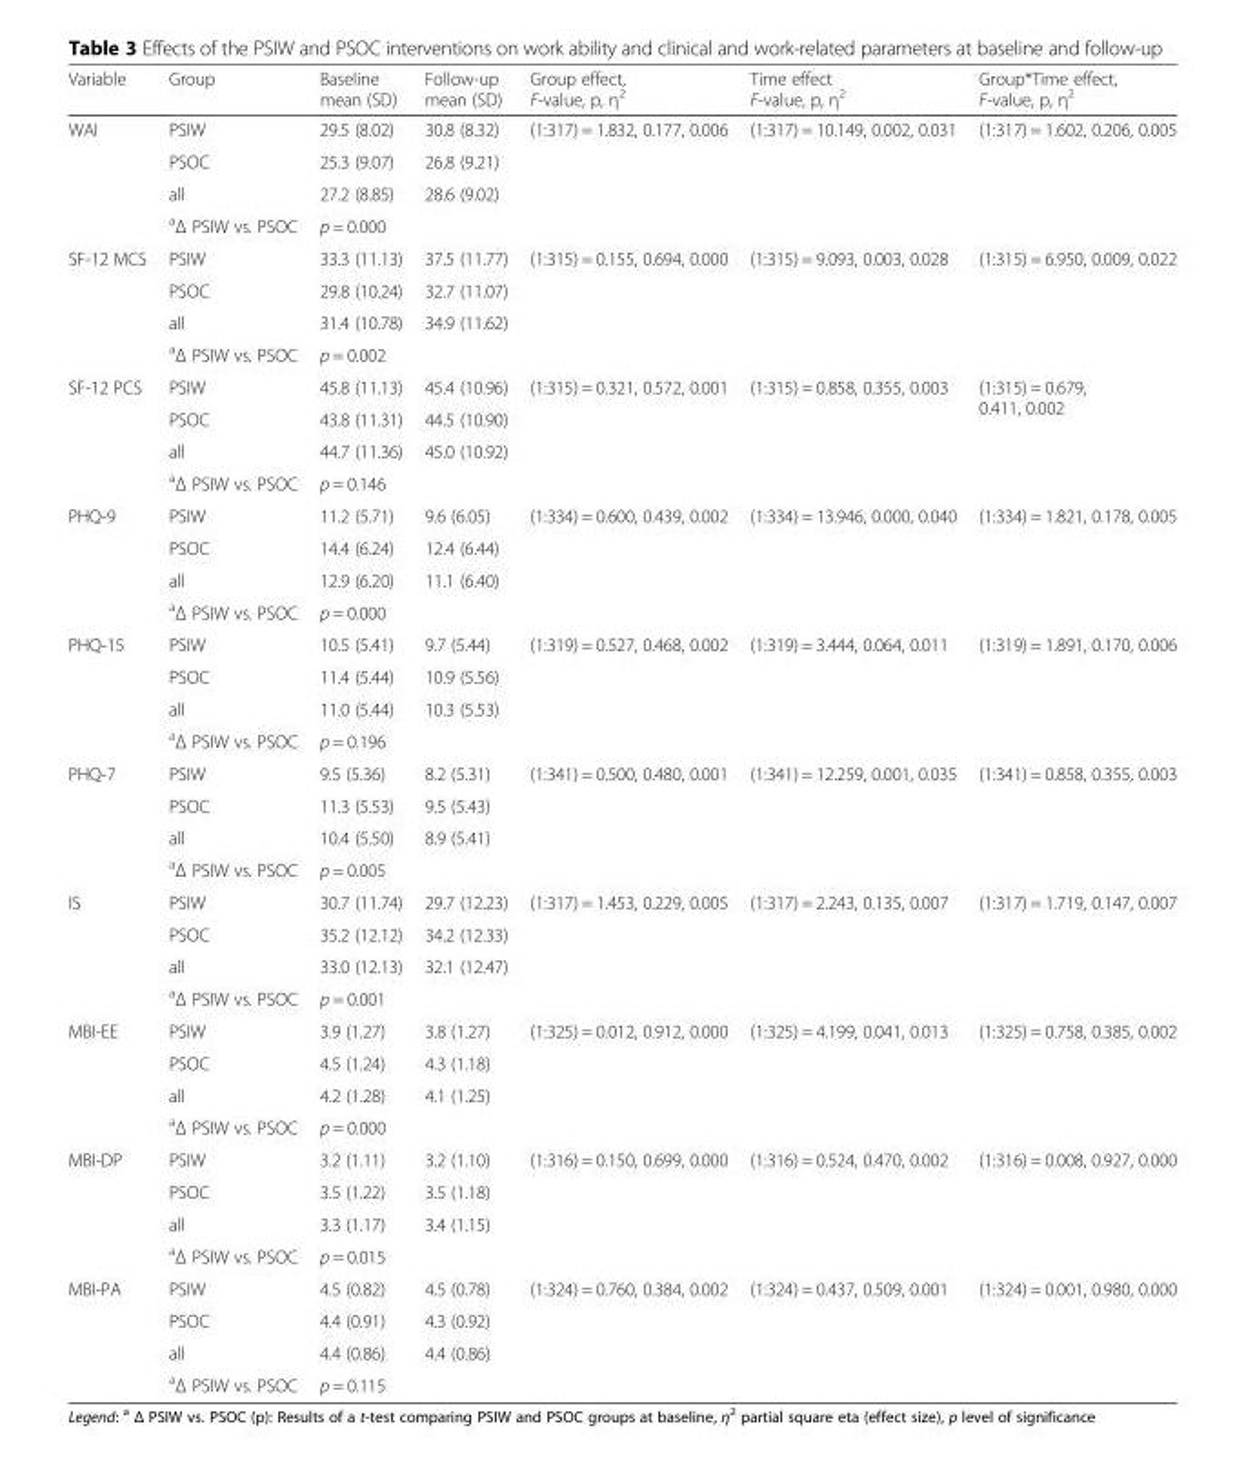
<table><thead><tr><td>Variable</td><td>Group</td><td>Baseline mean (SD)</td><td>Follow-up mean (SD)</td><td>Group effect, F-value, p, η<sup>2</sup></td><td>Time effect F-value, p, η<sup>2</sup></td><td>Group*Time effect, F-value, p, η<sup>2</sup></td></tr></thead><tbody><tr><td rowspan="4">WAI</td><td>PSIW</td><td>29.5 (8.02)</td><td>30.8 (8.32)</td><td rowspan="3">(1:317) = 1.832, 0.177, 0.006</td><td rowspan="3">(1:317) = 10.149, 0.002, 0.031</td><td rowspan="3">(1:317) = 1.602, 0.206, 0.005</td></tr><tr><td>PSOC</td><td>25.3 (9.07)</td><td>26.8 (9.21)</td></tr><tr><td>all</td><td>27.2 (8.85)</td><td>28.6 (9.02)</td></tr><tr><td><sup>a</sup>Δ PSIW vs. PSOC</td><td>p = 0.000</td><td></td><td></td><td></td><td></td></tr><tr><td rowspan="4">SF-12 MCS</td><td>PSIW</td><td>33.3 (11.13)</td><td>37.5 (11.77)</td><td rowspan="3">(1:315) = 0.155, 0.694, 0.000</td><td rowspan="3">(1:315) = 9.093, 0.003, 0.028</td><td rowspan="3">(1:315) = 6.950, 0.009, 0.022</td></tr><tr><td>PSOC</td><td>29.8 (10.24)</td><td>32.7 (11.07)</td></tr><tr><td>all</td><td>31.4 (10.78)</td><td>34.9 (11.62)</td></tr><tr><td><sup>a</sup>Δ PSIW vs. PSOC</td><td>p = 0.002</td><td></td><td></td><td></td><td></td></tr><tr><td rowspan="4">SF-12 PCS</td><td>PSIW</td><td>45.8 (11.13)</td><td>45.4 (10.96)</td><td rowspan="3">(1:315) = 0.321, 0.572, 0.001</td><td rowspan="3">(1:315) = 0.858, 0.355, 0.003</td><td rowspan="3">(1:315) = 0.679, 0.411, 0.002</td></tr><tr><td>PSOC</td><td>43.8 (11.31)</td><td>44.5 (10.90)</td></tr><tr><td>all</td><td>44.7 (11.36)</td><td>45.0 (10.92)</td></tr><tr><td><sup>a</sup>Δ PSIW vs. PSOC</td><td>p = 0.146</td><td></td><td></td><td></td><td></td></tr><tr><td rowspan="4">PHQ-9</td><td>PSIW</td><td>11.2 (5.71)</td><td>9.6 (6.05)</td><td rowspan="3">(1:334) = 0.600, 0.439, 0.002</td><td rowspan="3">(1:334) = 13.946, 0.000, 0.040</td><td rowspan="3">(1:334) = 1.821, 0.178, 0.005</td></tr><tr><td>PSOC</td><td>14.4 (6.24)</td><td>12.4 (6.44)</td></tr><tr><td>all</td><td>12.9 (6.20)</td><td>11.1 (6.40)</td></tr><tr><td><sup>a</sup>Δ PSIW vs. PSOC</td><td>p = 0.000</td><td></td><td></td><td></td><td></td></tr><tr><td rowspan="4">PHQ-15</td><td>PSIW</td><td>10.5 (5.41)</td><td>9.7 (5.44)</td><td rowspan="3">(1:319) = 0.527, 0.468, 0.002</td><td rowspan="3">(1:319) = 3.444, 0.064, 0.011</td><td rowspan="3">(1:319) = 1.891, 0.170, 0.006</td></tr><tr><td>PSOC</td><td>11.4 (5.44)</td><td>10.9 (5.56)</td></tr><tr><td>all</td><td>11.0 (5.44)</td><td>10.3 (5.53)</td></tr><tr><td><sup>a</sup>Δ PSIW vs. PSOC</td><td>p = 0.196</td><td></td><td></td><td></td><td></td></tr><tr><td rowspan="4">PHQ-7</td><td>PSIW</td><td>9.5 (5.36)</td><td>8.2 (5.31)</td><td rowspan="3">(1:341) = 0.500, 0.480, 0.001</td><td rowspan="3">(1:341) = 12.259, 0.001, 0.035</td><td rowspan="3">(1:341) = 0.858, 0.355, 0.003</td></tr><tr><td>PSOC</td><td>11.3 (5.53)</td><td>9.5 (5.43)</td></tr><tr><td>all</td><td>10.4 (5.50)</td><td>8.9 (5.41)</td></tr><tr><td><sup>a</sup>Δ PSIW vs. PSOC</td><td>p = 0.005</td><td></td><td></td><td></td><td></td></tr><tr><td rowspan="4">IS</td><td>PSIW</td><td>30.7 (11.74)</td><td>29.7 (12.23)</td><td rowspan="3">(1:317) = 1.453, 0.229, 0.005</td><td rowspan="3">(1:317) = 2.243, 0.135, 0.007</td><td rowspan="3">(1:317) = 1.719, 0.147, 0.007</td></tr><tr><td>PSOC</td><td>35.2 (12.12)</td><td>34.2 (12.33)</td></tr><tr><td>all</td><td>33.0 (12.13)</td><td>32.1 (12.47)</td></tr><tr><td><sup>a</sup>Δ PSIW vs. PSOC</td><td>p = 0.001</td><td></td><td></td><td></td><td></td></tr><tr><td rowspan="4">MBI-EE</td><td>PSIW</td><td>3.9 (1.27)</td><td>3.8 (1.27)</td><td rowspan="3">(1:325) = 0.012, 0.912, 0.000</td><td rowspan="3">(1:325) = 4.199, 0.041, 0.013</td><td rowspan="3">(1:325) = 0.758, 0.385, 0.002</td></tr><tr><td>PSOC</td><td>4.5 (1.24)</td><td>4.3 (1.18)</td></tr><tr><td>all</td><td>4.2 (1.28)</td><td>4.1 (1.25)</td></tr><tr><td><sup>a</sup>Δ PSIW vs. PSOC</td><td>p = 0.000</td><td></td><td></td><td></td><td></td></tr><tr><td rowspan="4">MBI-DP</td><td>PSIW</td><td>3.2 (1.11)</td><td>3.2 (1.10)</td><td rowspan="3">(1:316) = 0.150, 0.699, 0.000</td><td rowspan="3">(1:316) = 0.524, 0.470, 0.002</td><td rowspan="3">(1:316) = 0.008, 0.927, 0.000</td></tr><tr><td>PSOC</td><td>3.5 (1.22)</td><td>3.5 (1.18)</td></tr><tr><td>all</td><td>3.3 (1.17)</td><td>3.4 (1.15)</td></tr><tr><td><sup>a</sup>Δ PSIW vs. PSOC</td><td>p = 0.015</td><td></td><td></td><td></td><td></td></tr><tr><td rowspan="4">MBI-PA</td><td>PSIW</td><td>4.5 (0.82)</td><td>4.5 (0.78)</td><td rowspan="3">(1:324) = 0.760, 0.384, 0.002</td><td rowspan="3">(1:324) = 0.437, 0.509, 0.001</td><td rowspan="3">(1:324) = 0.001, 0.980, 0.000</td></tr><tr><td>PSOC</td><td>4.4 (0.91)</td><td>4.3 (0.92)</td></tr><tr><td>all</td><td>4.4 (0.86)</td><td>4.4 (0.86)</td></tr><tr><td><sup>a</sup>Δ PSIW vs. PSOC</td><td>p = 0.115</td><td></td><td></td><td></td><td></td></tr></tbody></table>